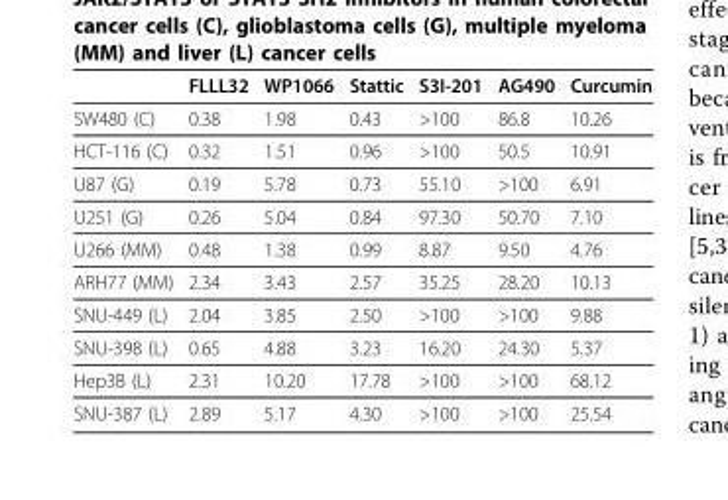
<table><thead><tr><td></td><td>FLLL32</td><td>WP1066</td><td>Stattic</td><td>S3I-201</td><td>AG490</td><td>Curcumin</td></tr></thead><tbody><tr><td>SW480 (C)</td><td>0.38</td><td>1.98</td><td>0.43</td><td>&gt;100</td><td>86.8</td><td>10.26</td></tr><tr><td>HCT-116 (C)</td><td>0.32</td><td>1.51</td><td>0.96</td><td>&gt;100</td><td>50.5</td><td>10.91</td></tr><tr><td>U87 (G)</td><td>0.19</td><td>5.78</td><td>0.73</td><td>55.10</td><td>&gt;100</td><td>6.91</td></tr><tr><td>U251 (G)</td><td>0.26</td><td>5.04</td><td>0.84</td><td>97.30</td><td>50.70</td><td>7.10</td></tr><tr><td>U266 (MM)</td><td>0.48</td><td>1.38</td><td>0.99</td><td>8.87</td><td>9.50</td><td>4.76</td></tr><tr><td>ARH77 (MM)</td><td>2.34</td><td>3.43</td><td>2.57</td><td>35.25</td><td>28.20</td><td>10.13</td></tr><tr><td>SNU-449 (L)</td><td>2.04</td><td>3.85</td><td>2.50</td><td>&gt;100</td><td>&gt;100</td><td>9.88</td></tr><tr><td>SNU-398 (L)</td><td>0.65</td><td>4.88</td><td>3.23</td><td>16.20</td><td>24.30</td><td>5.37</td></tr><tr><td>Hep3B (L)</td><td>2.31</td><td>10.20</td><td>17.78</td><td>&gt;100</td><td>&gt;100</td><td>68.12</td></tr><tr><td>SNU-387 (L)</td><td>2.89</td><td>5.17</td><td>4.30</td><td>&gt;100</td><td>&gt;100</td><td>25.54</td></tr></tbody></table>